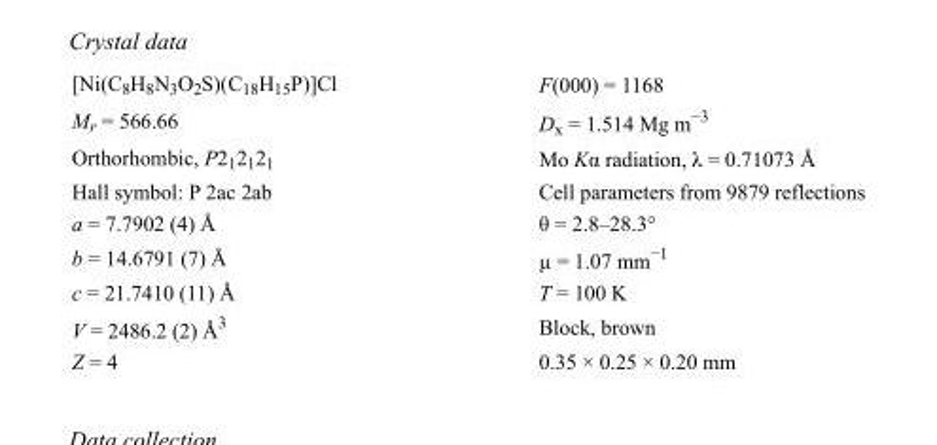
<table><tbody><tr><td>[Ni(C<sub>8</sub>H<sub>8</sub>N<sub>3</sub>O<sub>2</sub>S)(C<sub>18</sub>H<sub>15</sub>P)]Cl</td><td>F(000) = 1168</td></tr><tr><td>M<sub>r</sub> = 566.66</td><td>D<sub>x</sub> = 1.514 Mg m<sup>−3</sup></td></tr><tr><td>Orthorhombic, P2<sub>1</sub>2<sub>1</sub>2<sub>1</sub></td><td>Mo Kα radiation, λ = 0.71073 Å</td></tr><tr><td>Hall symbol: P 2ac 2ab</td><td>Cell parameters from 9879 reflections</td></tr><tr><td>a = 7.7902 (4) Å</td><td>θ = 2.8–28.3°</td></tr><tr><td>b = 14.6791 (7) Å</td><td>µ = 1.07 mm<sup>−1</sup></td></tr><tr><td>c = 21.7410 (11) Å</td><td>T = 100 K</td></tr><tr><td>V = 2486.2 (2) Å<sup>3</sup></td><td>Block, brown</td></tr><tr><td>Z = 4</td><td>0.35 × 0.25 × 0.20 mm</td></tr></tbody></table>